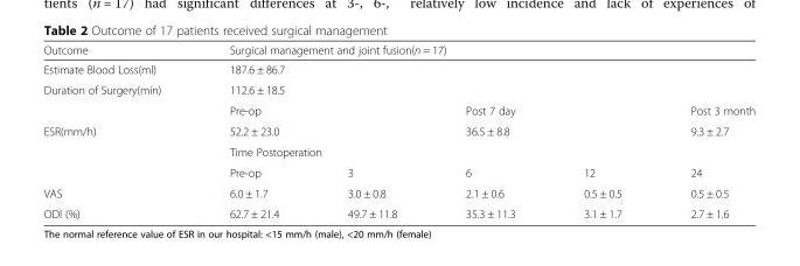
<table><thead><tr><td>Outcome</td><td colspan="5">Surgical management and joint fusion(n = 17)</td></tr></thead><tbody><tr><td>Estimate Blood Loss(ml)</td><td colspan="5">187.6 ± 86.7</td></tr><tr><td rowspan="2">Duration of Surgery(min)</td><td colspan="5">112.6 ± 18.5</td></tr><tr><td colspan="2">Pre-op</td><td colspan="2">Post 7 day</td><td>Post 3 month</td></tr><tr><td rowspan="3">ESR(mm/h)</td><td colspan="2">52.2 ± 23.0</td><td colspan="2">36.5 ± 8.8</td><td>9.3 ± 2.7</td></tr><tr><td colspan="5">Time Postoperation</td></tr><tr><td>Pre-op</td><td>3</td><td>6</td><td>12</td><td>24</td></tr><tr><td>VAS</td><td>6.0 ± 1.7</td><td>3.0 ± 0.8</td><td>2.1 ± 0.6</td><td>0.5 ± 0.5</td><td>0.5 ± 0.5</td></tr><tr><td>ODI (%)</td><td>62.7 ± 21.4</td><td>49.7 ± 11.8</td><td>35.3 ± 11.3</td><td>3.1 ± 1.7</td><td>2.7 ± 1.6</td></tr></tbody></table>